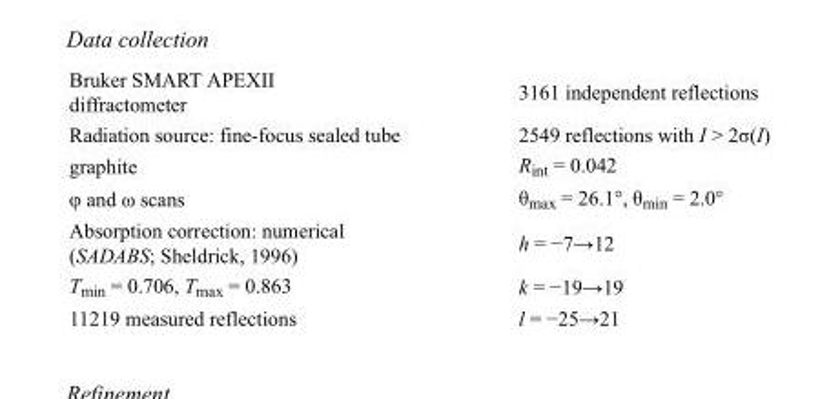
<table><tbody><tr><td>Bruker SMART APEXII diffractometer</td><td>3161 independent reflections</td></tr><tr><td>Radiation source: fine-focus sealed tube</td><td>2549 reflections with I &gt; 2σ(I)</td></tr><tr><td>graphite</td><td>R<sub>int</sub> = 0.042</td></tr><tr><td>φ and ω scans</td><td>θ<sub>max</sub> = 26.1°, θ<sub>min</sub> = 2.0°</td></tr><tr><td>Absorption correction: numerical (SADABS; Sheldrick, 1996)</td><td>h = −7→12</td></tr><tr><td>T<sub>min</sub> = 0.706, T<sub>max</sub> = 0.863</td><td>k = −19→19</td></tr><tr><td>11219 measured reflections</td><td>l = −25→21</td></tr></tbody></table>